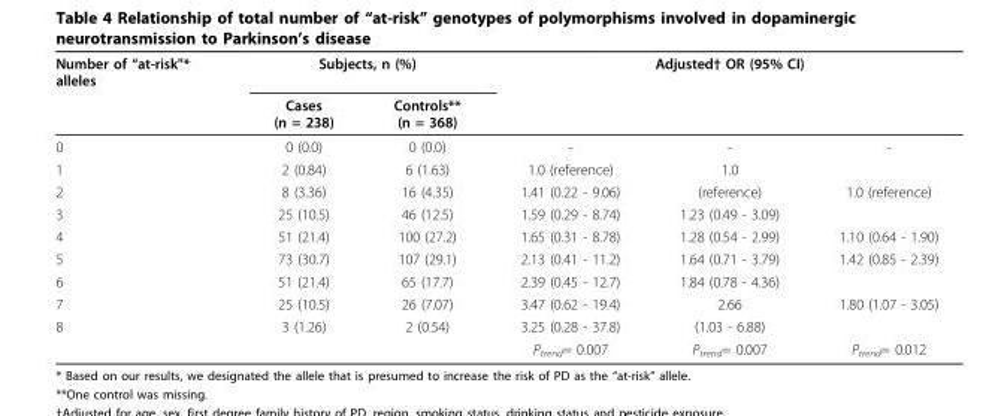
<table><thead><tr><td rowspan="2">Number of “at-risk&quot;* alleles</td><td colspan="2">Subjects, n (%)</td><td colspan="3">Adjusted† OR (95% CI)</td></tr><tr><td>Cases (n = 238)</td><td>Controls** (n = 368)</td><td></td><td></td><td></td></tr></thead><tbody><tr><td>0</td><td>0 (0.0)</td><td>0 (0.0)</td><td>-</td><td>-</td><td>-</td></tr><tr><td>1</td><td>2 (0.84)</td><td>6 (1.63)</td><td>1.0 (reference)</td><td>1.0</td><td></td></tr><tr><td>2</td><td>8 (3.36)</td><td>16 (4.35)</td><td>1.41 (0.22 - 9.06)</td><td>(reference)</td><td>1.0 (reference)</td></tr><tr><td>3</td><td>25 (10.5)</td><td>46 (12.5)</td><td>1.59 (0.29 - 8.74)</td><td>1.23 (0.49 - 3.09)</td><td></td></tr><tr><td>4</td><td>51 (21.4)</td><td>100 (27.2)</td><td>1.65 (0.31 - 8.78)</td><td>1.28 (0.54 - 2.99)</td><td>1.10 (0.64 - 1.90)</td></tr><tr><td>5</td><td>73 (30.7)</td><td>107 (29.1)</td><td>2.13 (0.41 - 11.2)</td><td>1.64 (0.71 - 3.79)</td><td>1.42 (0.85 - 2.39)</td></tr><tr><td>6</td><td>51 (21.4)</td><td>65 (17.7)</td><td>2.39 (0.45 - 12.7)</td><td>1.84 (0.78 - 4.36)</td><td></td></tr><tr><td>7</td><td>25 (10.5)</td><td>26 (7.07)</td><td>3.47 (0.62 - 19.4)</td><td>2.66</td><td>1.80 (1.07 - 3.05)</td></tr><tr><td rowspan="2">8</td><td>3 (1.26)</td><td>2 (0.54)</td><td>3.25 (0.28 - 37.8)</td><td>(1.03 - 6.88)</td><td></td></tr><tr><td></td><td></td><td>P<sub>trend</sub>= 0.007</td><td>P<sub>trend</sub>= 0.007</td><td>P<sub>trend</sub>= 0.012</td></tr></tbody></table>